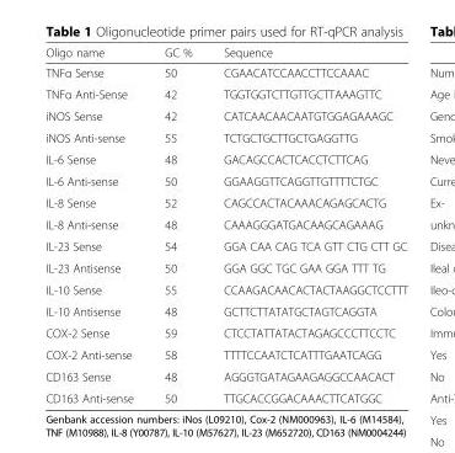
<table><thead><tr><td>Oligo name</td><td>GC %</td><td>Sequence</td></tr></thead><tbody><tr><td>TNFα Sense</td><td>50</td><td>CGAACATCCAACCTTCCAAAC</td></tr><tr><td>TNFα Anti-Sense</td><td>42</td><td>TGGTGGTCTTGTTGCTTAAAGTTC</td></tr><tr><td>iNOS Sense</td><td>42</td><td>CATCAACAACAATGTGGAGAAAGC</td></tr><tr><td>iNOS Anti-sense</td><td>55</td><td>TCTGCTGCTTGCTGAGGTTG</td></tr><tr><td>IL-6 Sense</td><td>48</td><td>GACAGCCACTCACCTCTTCAG</td></tr><tr><td>IL-6 Anti-sense</td><td>50</td><td>GGAAGGTTCAGGTTGTTTTCTGC</td></tr><tr><td>IL-8 Sense</td><td>52</td><td>CAGCCACTACAAACAGAGCACTG</td></tr><tr><td>IL-8 Anti-sense</td><td>48</td><td>CAAAGGGATGACAAGCAGAAAG</td></tr><tr><td>IL-23 Sense</td><td>54</td><td>GGA CAA CAG TCA GTT CTG CTT GC</td></tr><tr><td>IL-23 Antisense</td><td>50</td><td>GGA GGC TGC GAA GGA TTT TG</td></tr><tr><td>IL-10 Sense</td><td>55</td><td>CCAAGACAACACTACTAAGGCTCCTTT</td></tr><tr><td>IL-10 Antisense</td><td>48</td><td>GCTTCTTATATGCTAGTCAGGTA</td></tr><tr><td>COX-2 Sense</td><td>59</td><td>CTCCTATTATACTAGAGCCCTTCCTC</td></tr><tr><td>COX-2 Anti-sense</td><td>58</td><td>TTTTCCAATCTCATTTGAATCAGG</td></tr><tr><td>CD163 Sense</td><td>48</td><td>AGGGTGATAGAAGAGGCCAACACT</td></tr><tr><td>CD163 Anti-sense</td><td>50</td><td>TTGCACCGGACAAACTTCATGGC</td></tr></tbody></table>